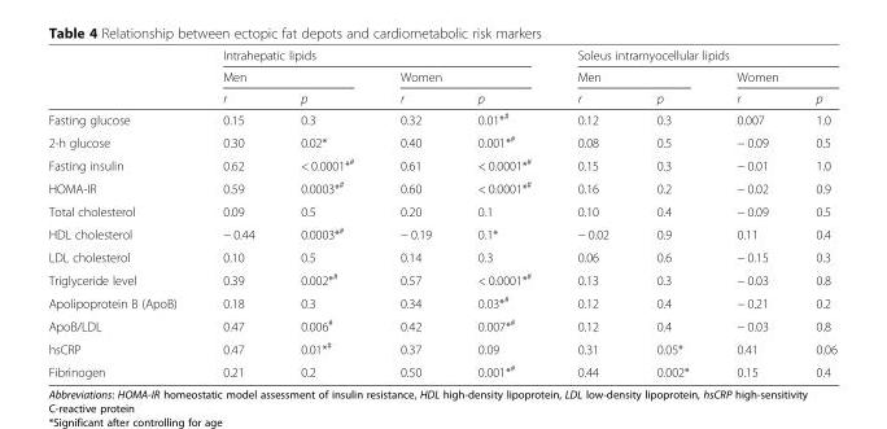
<table><thead><tr><td rowspan="3"></td><td colspan="4">Intrahepatic lipids</td><td colspan="4">Soleus intramyocellular lipids</td></tr><tr><td colspan="2">Men</td><td colspan="2">Women</td><td colspan="2">Men</td><td colspan="2">Women</td></tr><tr><td>r</td><td>p</td><td>r</td><td>p</td><td>r</td><td>p</td><td>r</td><td>p</td></tr></thead><tbody><tr><td>Fasting glucose</td><td>0.15</td><td>0.3</td><td>0.32</td><td>0.01*<sup>#</sup></td><td>0.12</td><td>0.3</td><td>0.007</td><td>1.0</td></tr><tr><td>2-h glucose</td><td>0.30</td><td>0.02*</td><td>0.40</td><td>0.001*<sup>#</sup></td><td>0.08</td><td>0.5</td><td>− 0.09</td><td>0.5</td></tr><tr><td>Fasting insulin</td><td>0.62</td><td>&lt; 0.0001*<sup>#</sup></td><td>0.61</td><td>&lt; 0.0001*<sup>#</sup></td><td>0.15</td><td>0.3</td><td>− 0.01</td><td>1.0</td></tr><tr><td>HOMA-IR</td><td>0.59</td><td>0.0003*<sup>#</sup></td><td>0.60</td><td>&lt; 0.0001*<sup>#</sup></td><td>0.16</td><td>0.2</td><td>− 0.02</td><td>0.9</td></tr><tr><td>Total cholesterol</td><td>0.09</td><td>0.5</td><td>0.20</td><td>0.1</td><td>0.10</td><td>0.4</td><td>− 0.09</td><td>0.5</td></tr><tr><td>HDL cholesterol</td><td>− 0.44</td><td>0.0003*<sup>#</sup></td><td>− 0.19</td><td>0.1*</td><td>− 0.02</td><td>0.9</td><td>0.11</td><td>0.4</td></tr><tr><td>LDL cholesterol</td><td>0.10</td><td>0.5</td><td>0.14</td><td>0.3</td><td>0.06</td><td>0.6</td><td>− 0.15</td><td>0.3</td></tr><tr><td>Triglyceride level</td><td>0.39</td><td>0.002*<sup>#</sup></td><td>0.57</td><td>&lt; 0.0001*<sup>#</sup></td><td>0.13</td><td>0.3</td><td>− 0.03</td><td>0.8</td></tr><tr><td>Apolipoprotein B (ApoB)</td><td>0.18</td><td>0.3</td><td>0.34</td><td>0.03*<sup>#</sup></td><td>0.12</td><td>0.4</td><td>− 0.21</td><td>0.2</td></tr><tr><td>ApoB/LDL</td><td>0.47</td><td>0.006<sup>#</sup></td><td>0.42</td><td>0.007*<sup>#</sup></td><td>0.12</td><td>0.4</td><td>− 0.03</td><td>0.8</td></tr><tr><td>hsCRP</td><td>0.47</td><td>0.01*<sup>#</sup></td><td>0.37</td><td>0.09</td><td>0.31</td><td>0.05*</td><td>0.41</td><td>0.06</td></tr><tr><td>Fibrinogen</td><td>0.21</td><td>0.2</td><td>0.50</td><td>0.001*<sup>#</sup></td><td>0.44</td><td>0.002*</td><td>0.15</td><td>0.4</td></tr></tbody></table>